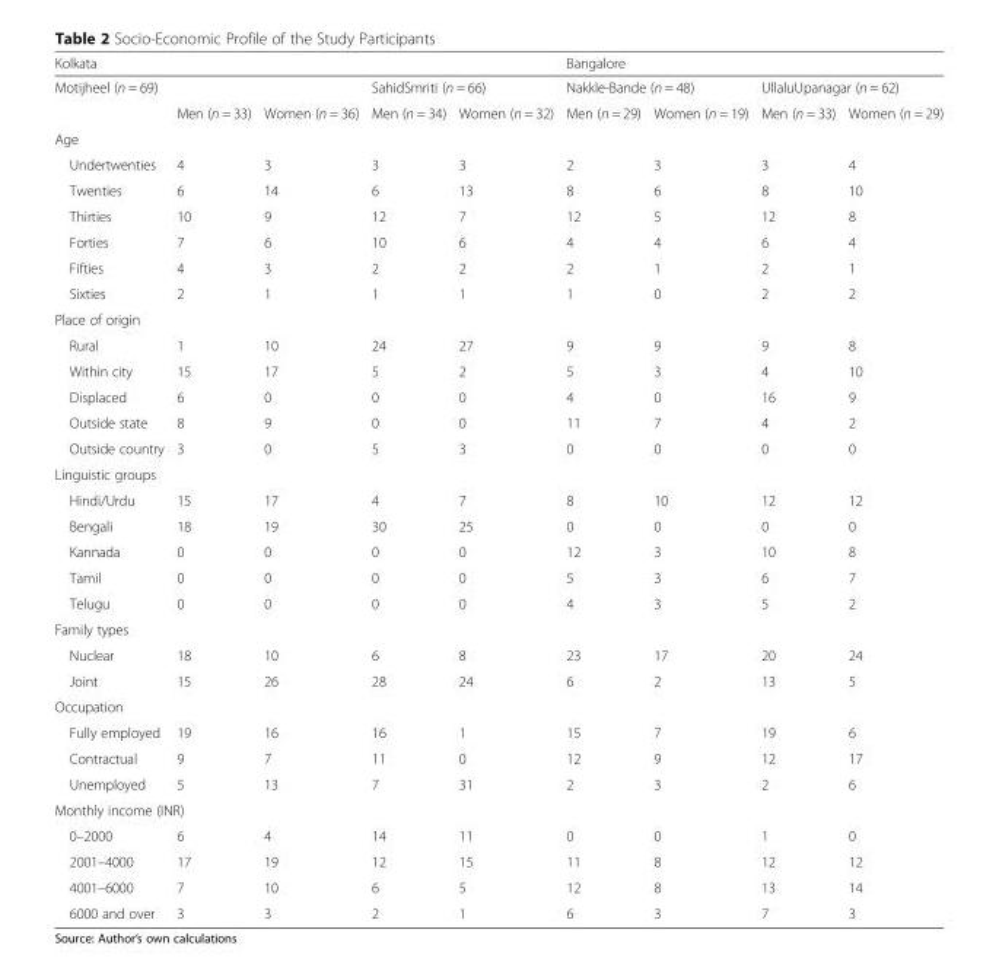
<table><thead><tr><td colspan="5">Kolkata</td><td colspan="4">Bangalore</td></tr><tr><td colspan="3">Motijheel (n = 69)</td><td colspan="2">SahidSmriti (n = 66)</td><td colspan="2">Nakkle-Bande (n = 48)</td><td colspan="2">UllaluUpanagar (n = 62)</td></tr><tr><td></td><td>Men (n = 33)</td><td>Women (n = 36)</td><td>Men (n = 34)</td><td>Women (n = 32)</td><td>Men (n = 29)</td><td>Women (n = 19)</td><td>Men (n = 33)</td><td>Women (n = 29)</td></tr></thead><tbody><tr><td colspan="9">Age</td></tr><tr><td>Undertwenties</td><td>4</td><td>3</td><td>3</td><td>3</td><td>2</td><td>3</td><td>3</td><td>4</td></tr><tr><td>Twenties</td><td>6</td><td>14</td><td>6</td><td>13</td><td>8</td><td>6</td><td>8</td><td>10</td></tr><tr><td>Thirties</td><td>10</td><td>9</td><td>12</td><td>7</td><td>12</td><td>5</td><td>12</td><td>8</td></tr><tr><td>Forties</td><td>7</td><td>6</td><td>10</td><td>6</td><td>4</td><td>4</td><td>6</td><td>4</td></tr><tr><td>Fifties</td><td>4</td><td>3</td><td>2</td><td>2</td><td>2</td><td>1</td><td>2</td><td>1</td></tr><tr><td>Sixties</td><td>2</td><td>1</td><td>1</td><td>1</td><td>1</td><td>0</td><td>2</td><td>2</td></tr><tr><td colspan="9">Place of origin</td></tr><tr><td>Rural</td><td>1</td><td>10</td><td>24</td><td>27</td><td>9</td><td>9</td><td>9</td><td>8</td></tr><tr><td>Within city</td><td>15</td><td>17</td><td>5</td><td>2</td><td>5</td><td>3</td><td>4</td><td>10</td></tr><tr><td>Displaced</td><td>6</td><td>0</td><td>0</td><td>0</td><td>4</td><td>0</td><td>16</td><td>9</td></tr><tr><td>Outside state</td><td>8</td><td>9</td><td>0</td><td>0</td><td>11</td><td>7</td><td>4</td><td>2</td></tr><tr><td>Outside country</td><td>3</td><td>0</td><td>5</td><td>3</td><td>0</td><td>0</td><td>0</td><td>0</td></tr><tr><td colspan="9">Linguistic groups</td></tr><tr><td>Hindi/Urdu</td><td>15</td><td>17</td><td>4</td><td>7</td><td>8</td><td>10</td><td>12</td><td>12</td></tr><tr><td>Bengali</td><td>18</td><td>19</td><td>30</td><td>25</td><td>0</td><td>0</td><td>0</td><td>0</td></tr><tr><td>Kannada</td><td>0</td><td>0</td><td>0</td><td>0</td><td>12</td><td>3</td><td>10</td><td>8</td></tr><tr><td>Tamil</td><td>0</td><td>0</td><td>0</td><td>0</td><td>5</td><td>3</td><td>6</td><td>7</td></tr><tr><td>Telugu</td><td>0</td><td>0</td><td>0</td><td>0</td><td>4</td><td>3</td><td>5</td><td>2</td></tr><tr><td colspan="9">Family types</td></tr><tr><td>Nuclear</td><td>18</td><td>10</td><td>6</td><td>8</td><td>23</td><td>17</td><td>20</td><td>24</td></tr><tr><td>Joint</td><td>15</td><td>26</td><td>28</td><td>24</td><td>6</td><td>2</td><td>13</td><td>5</td></tr><tr><td colspan="9">Occupation</td></tr><tr><td>Fully employed</td><td>19</td><td>16</td><td>16</td><td>1</td><td>15</td><td>7</td><td>19</td><td>6</td></tr><tr><td>Contractual</td><td>9</td><td>7</td><td>11</td><td>0</td><td>12</td><td>9</td><td>12</td><td>17</td></tr><tr><td>Unemployed</td><td>5</td><td>13</td><td>7</td><td>31</td><td>2</td><td>3</td><td>2</td><td>6</td></tr><tr><td colspan="9">Monthly income (INR)</td></tr><tr><td>0–2000</td><td>6</td><td>4</td><td>14</td><td>11</td><td>0</td><td>0</td><td>1</td><td>0</td></tr><tr><td>2001–4000</td><td>17</td><td>19</td><td>12</td><td>15</td><td>11</td><td>8</td><td>12</td><td>12</td></tr><tr><td>4001–6000</td><td>7</td><td>10</td><td>6</td><td>5</td><td>12</td><td>8</td><td>13</td><td>14</td></tr><tr><td>6000 and over</td><td>3</td><td>3</td><td>2</td><td>1</td><td>6</td><td>3</td><td>7</td><td>3</td></tr></tbody></table>